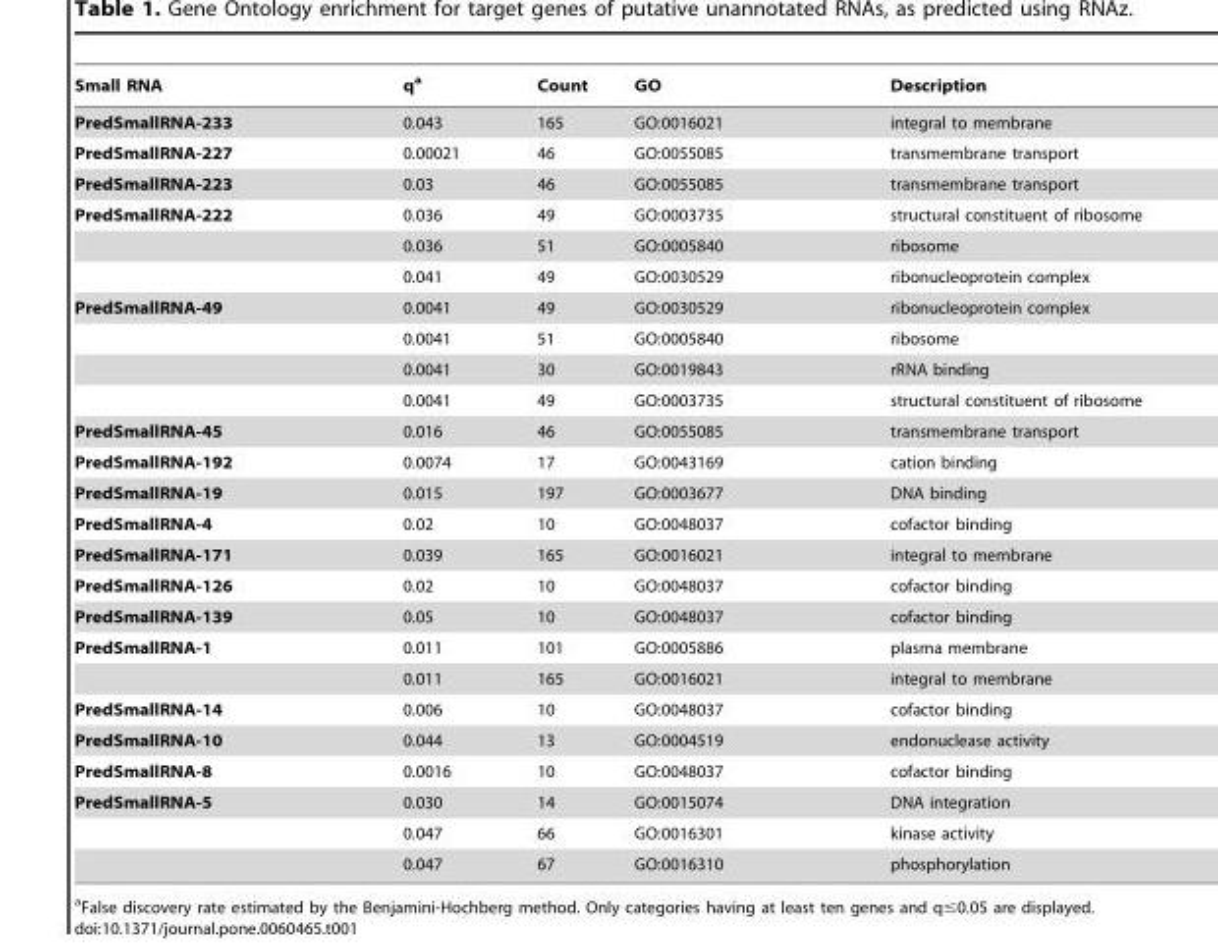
<table><thead><tr><td>Small RNA</td><td>q<sup>a</sup></td><td>Count</td><td>GO</td><td>Description</td></tr></thead><tbody><tr><td>PredSmallRNA-233</td><td>0.043</td><td>165</td><td>GO:0016021</td><td>integral to membrane</td></tr><tr><td>PredSmallRNA-227</td><td>0.00021</td><td>46</td><td>GO:0055085</td><td>transmembrane transport</td></tr><tr><td>PredSmallRNA-223</td><td>0.03</td><td>46</td><td>GO:0055085</td><td>transmembrane transport</td></tr><tr><td rowspan="3">PredSmallRNA-222</td><td>0.036</td><td>49</td><td>GO:0003735</td><td>structural constituent of ribosome</td></tr><tr><td>0.036</td><td>51</td><td>GO:0005840</td><td>ribosome</td></tr><tr><td>0.041</td><td>49</td><td>GO:0030529</td><td>ribonucleoprotein complex</td></tr><tr><td rowspan="4">PredSmallRNA-49</td><td>0.0041</td><td>49</td><td>GO:0030529</td><td>ribonucleoprotein complex</td></tr><tr><td>0.0041</td><td>51</td><td>GO:0005840</td><td>ribosome</td></tr><tr><td>0.0041</td><td>30</td><td>GO:0019843</td><td>rRNA binding</td></tr><tr><td>0.0041</td><td>49</td><td>GO:0003735</td><td>structural constituent of ribosome</td></tr><tr><td>PredSmallRNA-45</td><td>0.016</td><td>46</td><td>GO:0055085</td><td>transmembrane transport</td></tr><tr><td>PredSmallRNA-192</td><td>0.0074</td><td>17</td><td>GO:0043169</td><td>cation binding</td></tr><tr><td>PredSmallRNA-19</td><td>0.015</td><td>197</td><td>GO:0003677</td><td>DNA binding</td></tr><tr><td>PredSmallRNA-4</td><td>0.02</td><td>10</td><td>GO:0048037</td><td>cofactor binding</td></tr><tr><td>PredSmallRNA-171</td><td>0.039</td><td>165</td><td>GO:0016021</td><td>integral to membrane</td></tr><tr><td>PredSmallRNA-126</td><td>0.02</td><td>10</td><td>GO:0048037</td><td>cofactor binding</td></tr><tr><td>PredSmallRNA-139</td><td>0.05</td><td>10</td><td>GO:0048037</td><td>cofactor binding</td></tr><tr><td rowspan="2">PredSmallRNA-1</td><td>0.011</td><td>101</td><td>GO:0005886</td><td>plasma membrane</td></tr><tr><td>0.011</td><td>165</td><td>GO:0016021</td><td>integral to membrane</td></tr><tr><td>PredSmallRNA-14</td><td>0.006</td><td>10</td><td>GO:0048037</td><td>cofactor binding</td></tr><tr><td>PredSmallRNA-10</td><td>0.044</td><td>13</td><td>GO:0004519</td><td>endonuclease activity</td></tr><tr><td>PredSmallRNA-8</td><td>0.0016</td><td>10</td><td>GO:0048037</td><td>cofactor binding</td></tr><tr><td rowspan="3">PredSmallRNA-5</td><td>0.030</td><td>14</td><td>GO:0015074</td><td>DNA integration</td></tr><tr><td>0.047</td><td>66</td><td>GO:0016301</td><td>kinase activity</td></tr><tr><td>0.047</td><td>67</td><td>GO:0016310</td><td>phosphorylation</td></tr></tbody></table>